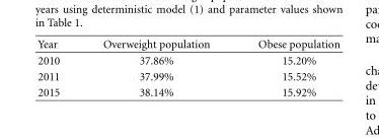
<table><thead><tr><td>Year</td><td>Overweight population</td><td>Obese population</td></tr></thead><tbody><tr><td>2010</td><td>37.86%</td><td>15.20%</td></tr><tr><td>2011</td><td>37.99%</td><td>15.52%</td></tr><tr><td>2015</td><td>38.14%</td><td>15.92%</td></tr></tbody></table>